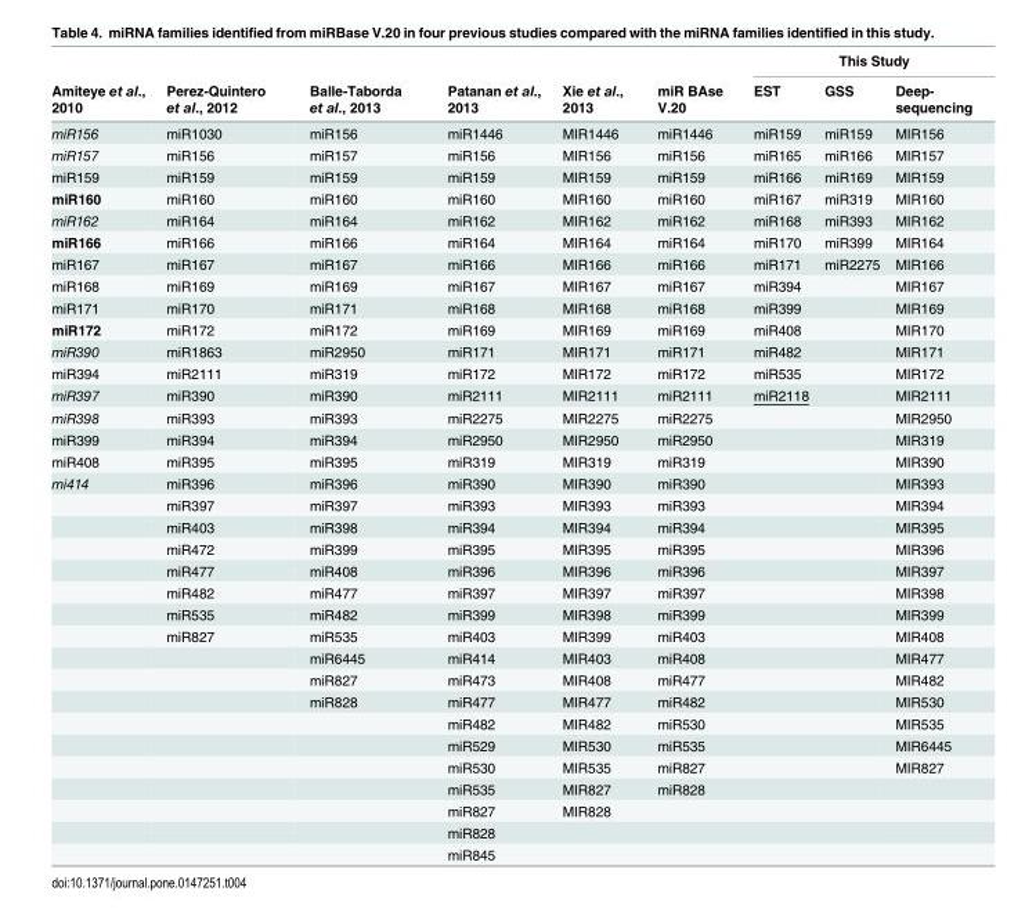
<table><thead><tr><td rowspan="2">Amiteye et al., 2010</td><td rowspan="2">Perez-Quintero et al., 2012</td><td rowspan="2">Balle-Taborda et al., 2013</td><td rowspan="2">Patanan et al., 2013</td><td rowspan="2">Xie et al., 2013</td><td rowspan="2">miR BAse V.20</td><td colspan="3">This Study</td></tr><tr><td>EST</td><td>GSS</td><td>Deep- sequencing</td></tr></thead><tbody><tr><td>miR156</td><td>miR1030</td><td>miR156</td><td>miR1446</td><td>MIR1446</td><td>miR1446</td><td>miR159</td><td>miR159</td><td>MIR156</td></tr><tr><td>miR157</td><td>miR156</td><td>miR157</td><td>miR156</td><td>MIR156</td><td>miR156</td><td>miR165</td><td>miR166</td><td>MIR157</td></tr><tr><td>miR159</td><td>miR159</td><td>miR159</td><td>miR159</td><td>MIR159</td><td>miR159</td><td>miR166</td><td>miR169</td><td>MIR159</td></tr><tr><td>miR160</td><td>miR160</td><td>miR160</td><td>miR160</td><td>MIR160</td><td>miR160</td><td>miR167</td><td>miR319</td><td>MIR160</td></tr><tr><td>miR162</td><td>miR164</td><td>miR164</td><td>miR162</td><td>MIR162</td><td>miR162</td><td>miR168</td><td>miR393</td><td>MIR162</td></tr><tr><td>miR166</td><td>miR166</td><td>miR166</td><td>miR164</td><td>MIR164</td><td>miR164</td><td>miR170</td><td>miR399</td><td>MIR164</td></tr><tr><td>miR167</td><td>miR167</td><td>miR167</td><td>miR166</td><td>MIR166</td><td>miR166</td><td>miR171</td><td>miR2275</td><td>MIR166</td></tr><tr><td>miR168</td><td>miR169</td><td>miR169</td><td>miR167</td><td>MIR167</td><td>miR167</td><td>miR394</td><td></td><td>MIR167</td></tr><tr><td>miR171</td><td>miR170</td><td>miR171</td><td>miR168</td><td>MIR168</td><td>miR168</td><td>miR399</td><td></td><td>MIR169</td></tr><tr><td>miR172</td><td>miR172</td><td>miR172</td><td>miR169</td><td>MIR169</td><td>miR169</td><td>miR408</td><td></td><td>MIR170</td></tr><tr><td>miR390</td><td>miR1863</td><td>miR2950</td><td>miR171</td><td>MIR171</td><td>miR171</td><td>miR482</td><td></td><td>MIR171</td></tr><tr><td>miR394</td><td>miR2111</td><td>miR319</td><td>miR172</td><td>MIR172</td><td>miR172</td><td>miR535</td><td></td><td>MIR172</td></tr><tr><td>miR397</td><td>miR390</td><td>miR390</td><td>miR2111</td><td>MIR2111</td><td>miR2111</td><td>miR2118</td><td></td><td>MIR2111</td></tr><tr><td>miR398</td><td>miR393</td><td>miR393</td><td>miR2275</td><td>MIR2275</td><td>miR2275</td><td></td><td></td><td>MIR2950</td></tr><tr><td>miR399</td><td>miR394</td><td>miR394</td><td>miR2950</td><td>MIR2950</td><td>miR2950</td><td></td><td></td><td>MIR319</td></tr><tr><td>miR408</td><td>miR395</td><td>miR395</td><td>miR319</td><td>MIR319</td><td>miR319</td><td></td><td></td><td>MIR390</td></tr><tr><td rowspan="18">mi414</td><td>miR396</td><td>miR396</td><td>miR390</td><td>MIR390</td><td>miR390</td><td></td><td></td><td>MIR393</td></tr><tr><td>miR397</td><td>miR397</td><td>miR393</td><td>MIR393</td><td>miR393</td><td></td><td></td><td>MIR394</td></tr><tr><td>miR403</td><td>miR398</td><td>miR394</td><td>MIR394</td><td>miR394</td><td></td><td></td><td>MIR395</td></tr><tr><td>miR472</td><td>miR399</td><td>miR395</td><td>MIR395</td><td>miR395</td><td></td><td></td><td>MIR396</td></tr><tr><td>miR477</td><td>miR408</td><td>miR396</td><td>MIR396</td><td>miR396</td><td></td><td></td><td>MIR397</td></tr><tr><td>miR482</td><td>miR477</td><td>miR397</td><td>MIR397</td><td>miR397</td><td></td><td></td><td>MIR398</td></tr><tr><td>miR535</td><td>miR482</td><td>miR399</td><td>MIR398</td><td>miR399</td><td></td><td></td><td>MIR399</td></tr><tr><td>miR827</td><td>miR535</td><td>miR403</td><td>MIR399</td><td>miR403</td><td></td><td></td><td>MIR408</td></tr><tr><td></td><td>miR6445</td><td>miR414</td><td>MIR403</td><td>miR408</td><td></td><td></td><td>MIR477</td></tr><tr><td></td><td>miR827</td><td>miR473</td><td>MIR408</td><td>miR477</td><td></td><td></td><td>MIR482</td></tr><tr><td></td><td>miR828</td><td>miR477</td><td>MIR477</td><td>miR482</td><td></td><td></td><td>MIR530</td></tr><tr><td></td><td></td><td>miR482</td><td>MIR482</td><td>miR530</td><td></td><td></td><td>MIR535</td></tr><tr><td></td><td></td><td>miR529</td><td>MIR530</td><td>miR535</td><td></td><td></td><td>MIR6445</td></tr><tr><td></td><td></td><td>miR530</td><td>MIR535</td><td>miR827</td><td></td><td></td><td>MIR827</td></tr><tr><td></td><td></td><td>miR535</td><td>MIR827</td><td>miR828</td><td></td><td></td><td></td></tr><tr><td></td><td></td><td>miR827</td><td>MIR828</td><td></td><td></td><td></td><td></td></tr><tr><td></td><td></td><td>miR828</td><td></td><td></td><td></td><td></td><td></td></tr><tr><td></td><td></td><td>miR845</td><td></td><td></td><td></td><td></td><td></td></tr></tbody></table>